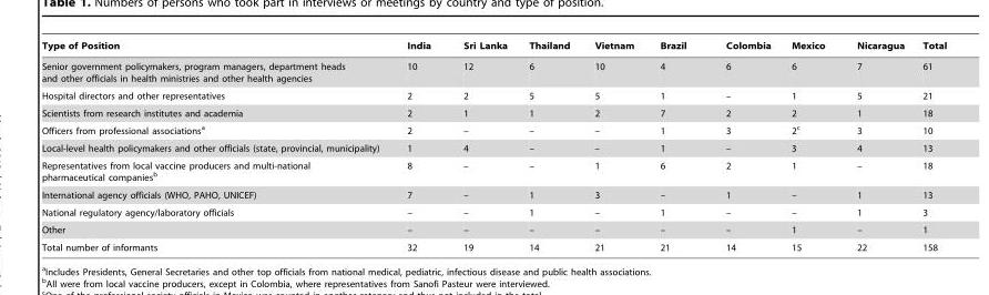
<table><thead><tr><td>Type of Position</td><td>India</td><td>Sri Lanka</td><td>Thailand</td><td>Vietnam</td><td>Brazil</td><td>Colombia</td><td>Mexico</td><td>Nicaragua</td><td>Total</td></tr></thead><tbody><tr><td>Senior government policymakers, program managers, department heads and other officials in health ministries and other health agencies</td><td>10</td><td>12</td><td>6</td><td>10</td><td>4</td><td>6</td><td>6</td><td>7</td><td>61</td></tr><tr><td>Hospital directors and other representatives</td><td>2</td><td>2</td><td>5</td><td>5</td><td>1</td><td>–</td><td>1</td><td>5</td><td>21</td></tr><tr><td>Scientists from research institutes and academia</td><td>2</td><td>1</td><td>1</td><td>2</td><td>7</td><td>2</td><td>2</td><td>1</td><td>18</td></tr><tr><td>Officers from professional associations<sup>a</sup></td><td>2</td><td>–</td><td>–</td><td>–</td><td>1</td><td>3</td><td>2<sup>c</sup></td><td>3</td><td>10</td></tr><tr><td>Local-level health policymakers and other officials (state, provincial, municipality)</td><td>1</td><td>4</td><td>–</td><td>–</td><td>1</td><td>–</td><td>3</td><td>4</td><td>13</td></tr><tr><td>Representatives from local vaccine producers and multi-national pharmaceutical companies<sup>b</sup></td><td>8</td><td>–</td><td>–</td><td>1</td><td>6</td><td>2</td><td>1</td><td>–</td><td>18</td></tr><tr><td>International agency officials (WHO, PAHO, UNICEF)</td><td>7</td><td>–</td><td>1</td><td>3</td><td>–</td><td>1</td><td>–</td><td>1</td><td>13</td></tr><tr><td>National regulatory agency/laboratory officials</td><td>–</td><td>–</td><td>1</td><td>–</td><td>1</td><td>–</td><td>–</td><td>1</td><td>3</td></tr><tr><td>Other</td><td>–</td><td>–</td><td>–</td><td>–</td><td>–</td><td>–</td><td>1</td><td>–</td><td>1</td></tr><tr><td>Total number of informants</td><td>32</td><td>19</td><td>14</td><td>21</td><td>21</td><td>14</td><td>15</td><td>22</td><td>158</td></tr></tbody></table>